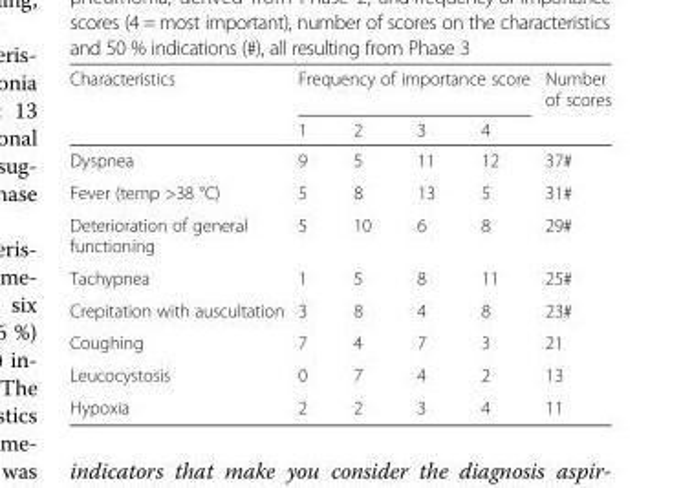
<table><thead><tr><td rowspan="2">Characteristics</td><td colspan="4">Frequency of importance score</td><td rowspan="2">Number of scores</td></tr><tr><td>1</td><td>2</td><td>3</td><td>4</td></tr></thead><tbody><tr><td>Dyspnea</td><td>9</td><td>5</td><td>11</td><td>12</td><td>37#</td></tr><tr><td>Fever (temp &gt;38 °C)</td><td>5</td><td>8</td><td>13</td><td>5</td><td>31#</td></tr><tr><td>Deterioration of general functioning</td><td>5</td><td>10</td><td>6</td><td>8</td><td>29#</td></tr><tr><td>Tachypnea</td><td>1</td><td>5</td><td>8</td><td>11</td><td>25#</td></tr><tr><td>Crepitation with auscultation</td><td>3</td><td>8</td><td>4</td><td>8</td><td>23#</td></tr><tr><td>Coughing</td><td>7</td><td>4</td><td>7</td><td>3</td><td>21</td></tr><tr><td>Leucocystosis</td><td>0</td><td>7</td><td>4</td><td>2</td><td>13</td></tr><tr><td>Hypoxia</td><td>2</td><td>2</td><td>3</td><td>4</td><td>11</td></tr></tbody></table>